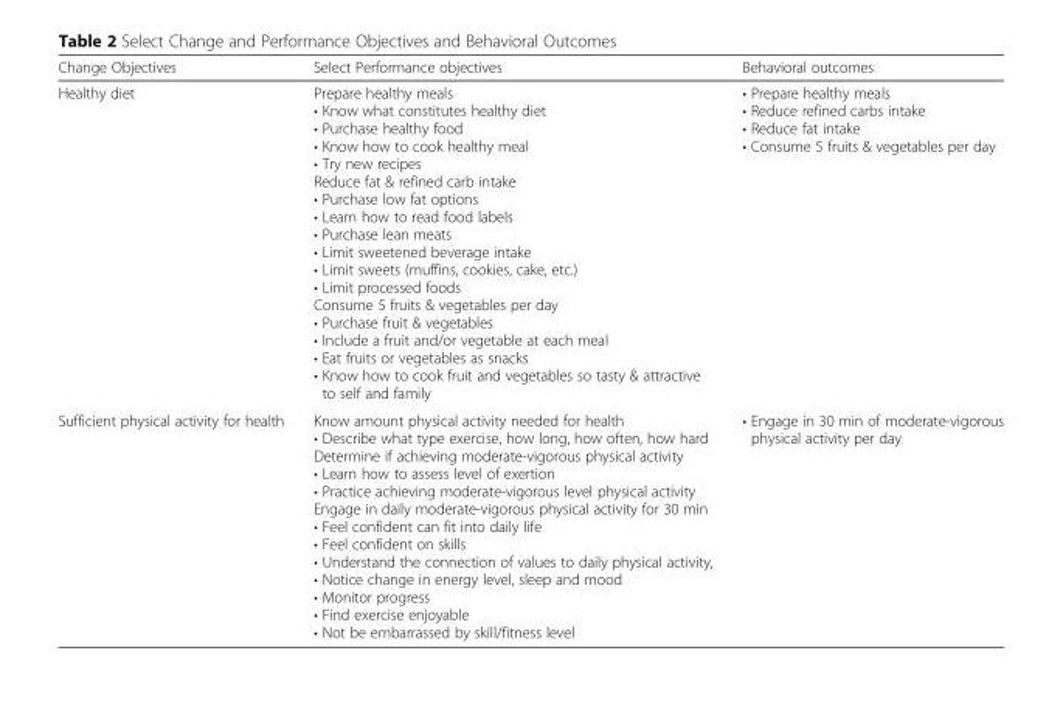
<table><thead><tr><td>Change Objectives</td><td>Select Performance objectives</td><td>Behavioral outcomes</td></tr></thead><tbody><tr><td>Healthy diet</td><td>Prepare healthy meals • Know what constitutes healthy diet • Purchase healthy food • Know how to cook healthy meal • Try new recipes Reduce fat &amp; refined carb intake • Purchase low fat options • Learn how to read food labels • Purchase lean meats • Limit sweetened beverage intake • Limit sweets (muffins, cookies, cake, etc.) • Limit processed foods Consume 5 fruits &amp; vegetables per day • Purchase fruit &amp; vegetables • Include a fruit and/or vegetable at each meal • Eat fruits or vegetables as snacks • Know how to cook fruit and vegetables so tasty &amp; attractive to self and family</td><td>• Prepare healthy meals • Reduce refined carbs intake • Reduce fat intake • Consume 5 fruits &amp; vegetables per day</td></tr><tr><td>Sufficient physical activity for health</td><td>Know amount physical activity needed for health • Describe what type exercise, how long, how often, how hard Determine if achieving moderate-vigorous physical activity • Learn how to assess level of exertion • Practice achieving moderate-vigorous level physical activity Engage in daily moderate-vigorous physical activity for 30 min • Feel confident can fit into daily life • Feel confident on skills • Understand the connection of values to daily physical activity, • Notice change in energy level, sleep and mood • Monitor progress • Find exercise enjoyable • Not be embarrassed by skill/fitness level</td><td>• Engage in 30 min of moderate-vigorous physical activity per day</td></tr></tbody></table>